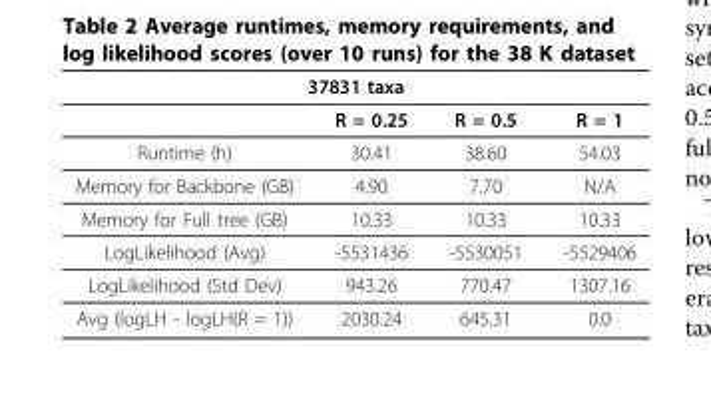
<table><thead><tr><td colspan="4">37831 taxa</td></tr><tr><td></td><td>R = 0.25</td><td>R = 0.5</td><td>R = 1</td></tr></thead><tbody><tr><td>Runtime (h)</td><td>30.41</td><td>38.60</td><td>54.03</td></tr><tr><td>Memory for Backbone (GB)</td><td>4.90</td><td>7.70</td><td>N/A</td></tr><tr><td>Memory for Full tree (GB)</td><td>10.33</td><td>10.33</td><td>10.33</td></tr><tr><td>LogLikelihood (Avg)</td><td>-5531436</td><td>-5530051</td><td>-5529406</td></tr><tr><td>LogLikelihood (Std Dev)</td><td>943.26</td><td>770.47</td><td>1307.16</td></tr><tr><td>Avg (logLH - logLH(R = 1))</td><td>2030.24</td><td>645.31</td><td>0.0</td></tr></tbody></table>